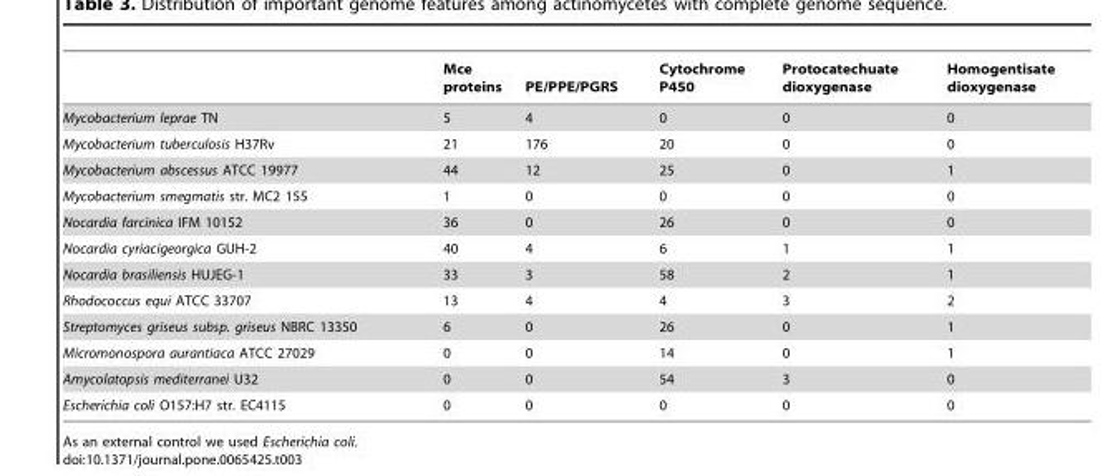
<table><thead><tr><td></td><td>Mce proteins</td><td>PE/PPE/PGRS</td><td>Cytochrome P450</td><td>Protocatechuate dioxygenase</td><td>Homogentisate dioxygenase</td></tr></thead><tbody><tr><td>Mycobacterium leprae TN</td><td>5</td><td>4</td><td>0</td><td>0</td><td>0</td></tr><tr><td>Mycobacterium tuberculosis H37Rv</td><td>21</td><td>176</td><td>20</td><td>0</td><td>0</td></tr><tr><td>Mycobacterium abscessus ATCC 19977</td><td>44</td><td>12</td><td>25</td><td>0</td><td>1</td></tr><tr><td>Mycobacterium smegmatis str. MC2 155</td><td>1</td><td>0</td><td>0</td><td>0</td><td>0</td></tr><tr><td>Nocardia farcinica IFM 10152</td><td>36</td><td>0</td><td>26</td><td>0</td><td>0</td></tr><tr><td>Nocardia cyriacigeorgica GUH-2</td><td>40</td><td>4</td><td>6</td><td>1</td><td>1</td></tr><tr><td>Nocardia brasiliensis HUJEG-1</td><td>33</td><td>3</td><td>58</td><td>2</td><td>1</td></tr><tr><td>Rhodococcus equi ATCC 33707</td><td>13</td><td>4</td><td>4</td><td>3</td><td>2</td></tr><tr><td>Streptomyces griseus subsp. griseus NBRC 13350</td><td>6</td><td>0</td><td>26</td><td>0</td><td>1</td></tr><tr><td>Micromonospora aurantiaca ATCC 27029</td><td>0</td><td>0</td><td>14</td><td>0</td><td>1</td></tr><tr><td>Amycolatopsis mediterranei U32</td><td>0</td><td>0</td><td>54</td><td>3</td><td>0</td></tr><tr><td>Escherichia coli O157:H7 str. EC4115</td><td>0</td><td>0</td><td>0</td><td>0</td><td>0</td></tr></tbody></table>